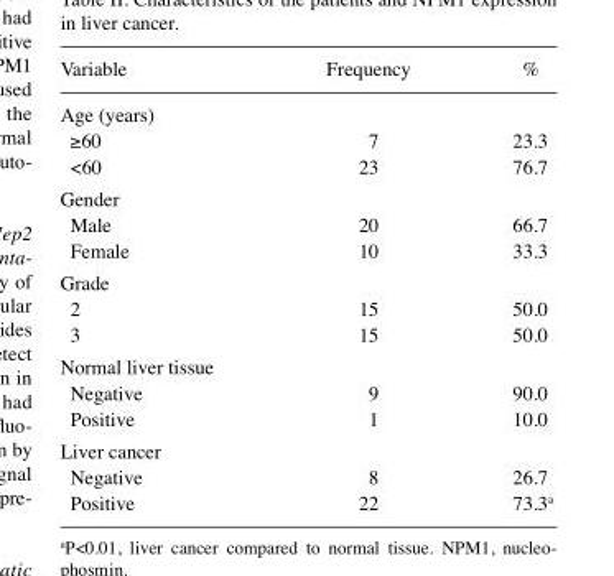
<table><thead><tr><td>Variable</td><td>Frequency</td><td>%</td></tr></thead><tbody><tr><td colspan="3">Age (years)</td></tr><tr><td>≥60</td><td>7</td><td>23.3</td></tr><tr><td>&lt;60</td><td>23</td><td>76.7</td></tr><tr><td colspan="3">Gender</td></tr><tr><td>Male</td><td>20</td><td>66.7</td></tr><tr><td>Female</td><td>10</td><td>33.3</td></tr><tr><td colspan="3">Grade</td></tr><tr><td>2</td><td>15</td><td>50.0</td></tr><tr><td>3</td><td>15</td><td>50.0</td></tr><tr><td colspan="3">Normal liver tissue</td></tr><tr><td>Negative</td><td>9</td><td>90.0</td></tr><tr><td>Positive</td><td>1</td><td>10.0</td></tr><tr><td colspan="3">Liver cancer</td></tr><tr><td>Negative</td><td>8</td><td>26.7</td></tr><tr><td>Positive</td><td>22</td><td>73.3<sup>a</sup></td></tr></tbody></table>